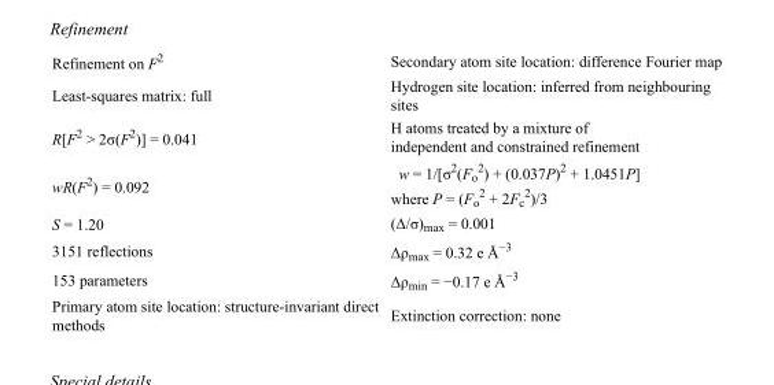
<table><tbody><tr><td>Refinement on F<sup>2</sup></td><td>Secondary atom site location: difference Fourier map</td></tr><tr><td>Least-squares matrix: full</td><td>Hydrogen site location: inferred from neighbouring sites</td></tr><tr><td>R[F<sup>2</sup> &gt; 2σ(F<sup>2</sup>)] = 0.041</td><td>H atoms treated by a mixture of independent and constrained refinement</td></tr><tr><td>wR(F<sup>2</sup>) = 0.092</td><td>w = 1/[σ<sup>2</sup>(F<sub>o</sub> <sup>2</sup>) + (0.037P)<sup>2</sup> + 1.0451P] where P = (F<sub>o</sub> <sup>2</sup> + 2F<sub>c</sub> <sup>2</sup>)/3</td></tr><tr><td>S = 1.20</td><td>(Δ/σ)<sub>max</sub> = 0.001</td></tr><tr><td>3151 reflections</td><td>Δρ<sub>max</sub> = 0.32 e Å<sup>−3</sup></td></tr><tr><td>153 parameters</td><td>Δρ<sub>min</sub> = −0.17 e Å<sup>−3</sup></td></tr><tr><td>Primary atom site location: structure-invariant direct methods</td><td>Extinction correction: none</td></tr></tbody></table>